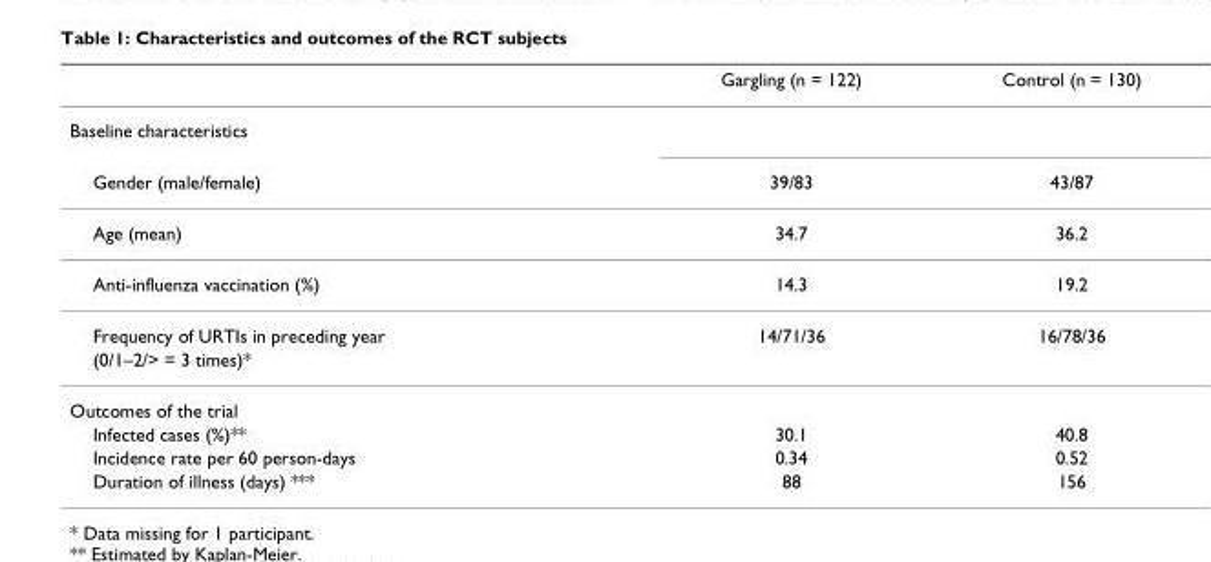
<table><thead><tr><td></td><td>Gargling (n = 122)</td><td>Control (n = 130)</td></tr></thead><tbody><tr><td colspan="3">Baseline characteristics</td></tr><tr><td>Gender (male/female)</td><td>39/83</td><td>43/87</td></tr><tr><td>Age (mean)</td><td>34.7</td><td>36.2</td></tr><tr><td>Anti-influenza vaccination (%)</td><td>14.3</td><td>19.2</td></tr><tr><td>Frequency of URTIs in preceding year</td><td>14/71/36</td><td>16/78/36</td></tr><tr><td colspan="3">(0/1–2/&gt; = 3 times)*</td></tr><tr><td colspan="3">Outcomes of the trial</td></tr><tr><td>Infected cases (%)**</td><td>30.1</td><td>40.8</td></tr><tr><td>Incidence rate per 60 person-days</td><td>0.34</td><td>0.52</td></tr><tr><td>Duration of illness (days) ***</td><td>88</td><td>156</td></tr></tbody></table>